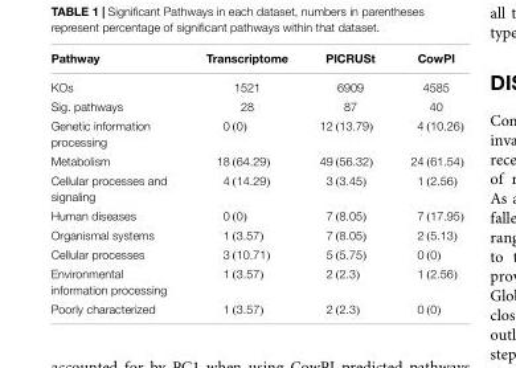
<table><thead><tr><td>Pathway</td><td>Transcriptome</td><td>PICRUSt</td><td>CowPI</td></tr></thead><tbody><tr><td>KOs</td><td>1521</td><td>6909</td><td>4585</td></tr><tr><td>Sig. pathways</td><td>28</td><td>87</td><td>40</td></tr><tr><td>Genetic information processing</td><td>0 (0)</td><td>12 (13.79)</td><td>4 (10.26)</td></tr><tr><td>Metabolism</td><td>18 (64.29)</td><td>49 (56.32)</td><td>24 (61.54)</td></tr><tr><td>Cellular processes and signaling</td><td>4 (14.29)</td><td>3 (3.45)</td><td>1 (2.56)</td></tr><tr><td>Human diseases</td><td>0 (0)</td><td>7 (8.05)</td><td>7 (17.95)</td></tr><tr><td>Organismal systems</td><td>1 (3.57)</td><td>7 (8.05)</td><td>2 (5.13)</td></tr><tr><td>Cellular processes</td><td>3 (10.71)</td><td>5 (5.75)</td><td>0 (0)</td></tr><tr><td>Environmental information processing</td><td>1 (3.57)</td><td>2 (2.3)</td><td>1 (2.56)</td></tr><tr><td>Poorly characterized</td><td>1 (3.57)</td><td>2 (2.3)</td><td>0 (0)</td></tr></tbody></table>